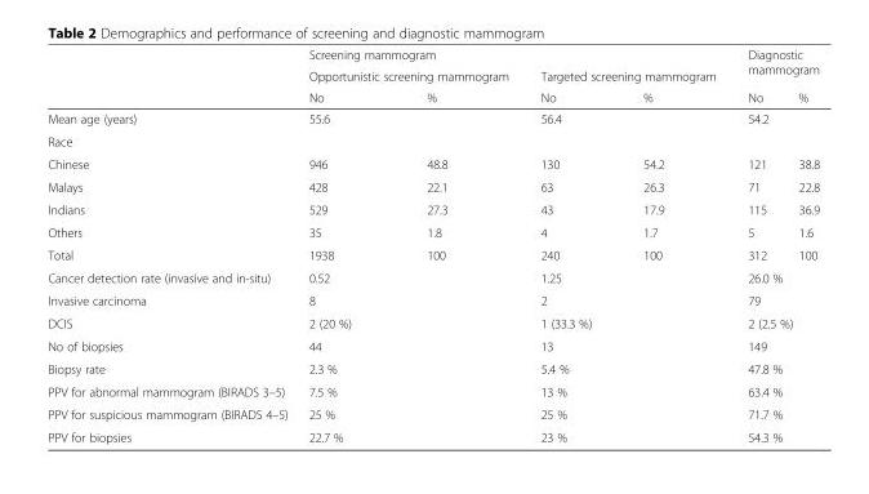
<table><thead><tr><td rowspan="3"></td><td colspan="4">Screening mammogram</td><td rowspan="2" colspan="2">Diagnostic mammogram</td></tr><tr><td colspan="2">Opportunistic screening mammogram</td><td colspan="2">Targeted screening mammogram</td></tr><tr><td>No</td><td>%</td><td>No</td><td>%</td><td>No</td><td>%</td></tr></thead><tbody><tr><td>Mean age (years)</td><td colspan="2">55.6</td><td colspan="2">56.4</td><td colspan="2">54.2</td></tr><tr><td colspan="7">Race</td></tr><tr><td>Chinese</td><td>946</td><td>48.8</td><td>130</td><td>54.2</td><td>121</td><td>38.8</td></tr><tr><td>Malays</td><td>428</td><td>22.1</td><td>63</td><td>26.3</td><td>71</td><td>22.8</td></tr><tr><td>Indians</td><td>529</td><td>27.3</td><td>43</td><td>17.9</td><td>115</td><td>36.9</td></tr><tr><td>Others</td><td>35</td><td>1.8</td><td>4</td><td>1.7</td><td>5</td><td>1.6</td></tr><tr><td>Total</td><td>1938</td><td>100</td><td>240</td><td>100</td><td>312</td><td>100</td></tr><tr><td>Cancer detection rate (invasive and in-situ)</td><td colspan="2">0.52</td><td colspan="2">1.25</td><td colspan="2">26.0 %</td></tr><tr><td>Invasive carcinoma</td><td colspan="2">8</td><td colspan="2">2</td><td colspan="2">79</td></tr><tr><td>DCIS</td><td colspan="2">2 (20 %)</td><td colspan="2">1 (33.3 %)</td><td colspan="2">2 (2.5 %)</td></tr><tr><td>No of biopsies</td><td colspan="2">44</td><td colspan="2">13</td><td colspan="2">149</td></tr><tr><td>Biopsy rate</td><td colspan="2">2.3 %</td><td colspan="2">5.4 %</td><td colspan="2">47.8 %</td></tr><tr><td>PPV for abnormal mammogram (BIRADS 3–5)</td><td colspan="2">7.5 %</td><td colspan="2">13 %</td><td colspan="2">63.4 %</td></tr><tr><td>PPV for suspicious mammogram (BIRADS 4–5)</td><td colspan="2">25 %</td><td colspan="2">25 %</td><td colspan="2">71.7 %</td></tr><tr><td>PPV for biopsies</td><td colspan="2">22.7 %</td><td colspan="2">23 %</td><td colspan="2">54.3 %</td></tr></tbody></table>